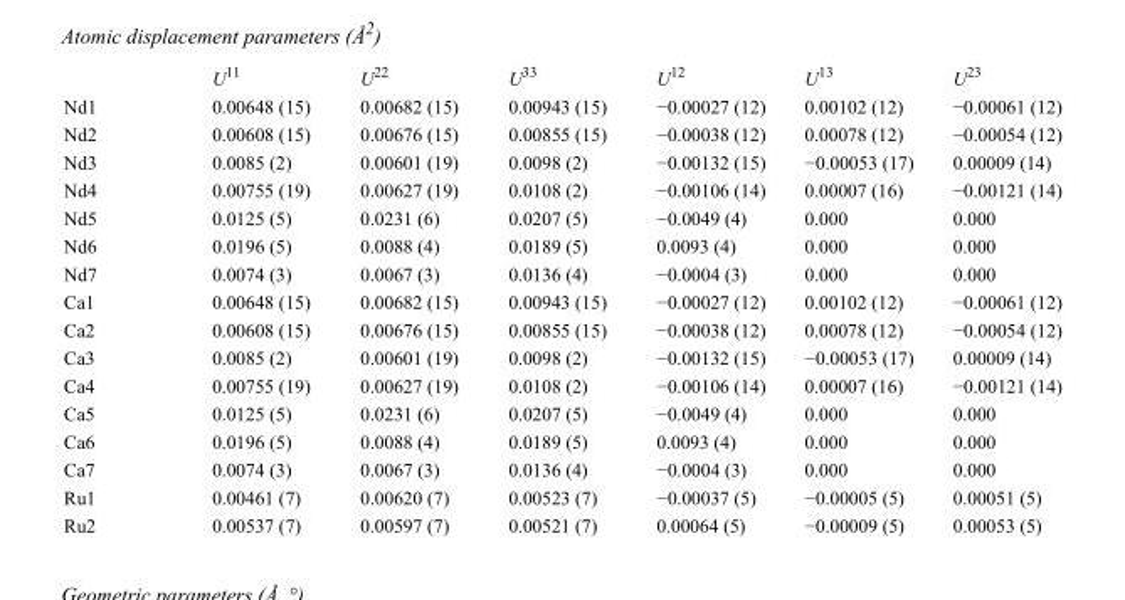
<table><thead><tr><td></td><td>U<sup>11</sup></td><td>U<sup>22</sup></td><td>U<sup>33</sup></td><td>U<sup>12</sup></td><td>U<sup>13</sup></td><td>U<sup>23</sup></td></tr></thead><tbody><tr><td>Nd1</td><td>0.00648 (15)</td><td>0.00682 (15)</td><td>0.00943 (15)</td><td>−0.00027 (12)</td><td>0.00102 (12)</td><td>−0.00061 (12)</td></tr><tr><td>Nd2</td><td>0.00608 (15)</td><td>0.00676 (15)</td><td>0.00855 (15)</td><td>−0.00038 (12)</td><td>0.00078 (12)</td><td>−0.00054 (12)</td></tr><tr><td>Nd3</td><td>0.0085 (2)</td><td>0.00601 (19)</td><td>0.0098 (2)</td><td>−0.00132 (15)</td><td>−0.00053 (17)</td><td>0.00009 (14)</td></tr><tr><td>Nd4</td><td>0.00755 (19)</td><td>0.00627 (19)</td><td>0.0108 (2)</td><td>−0.00106 (14)</td><td>0.00007 (16)</td><td>−0.00121 (14)</td></tr><tr><td>Nd5</td><td>0.0125 (5)</td><td>0.0231 (6)</td><td>0.0207 (5)</td><td>−0.0049 (4)</td><td>0.000</td><td>0.000</td></tr><tr><td>Nd6</td><td>0.0196 (5)</td><td>0.0088 (4)</td><td>0.0189 (5)</td><td>0.0093 (4)</td><td>0.000</td><td>0.000</td></tr><tr><td>Nd7</td><td>0.0074 (3)</td><td>0.0067 (3)</td><td>0.0136 (4)</td><td>−0.0004 (3)</td><td>0.000</td><td>0.000</td></tr><tr><td>Ca1</td><td>0.00648 (15)</td><td>0.00682 (15)</td><td>0.00943 (15)</td><td>−0.00027 (12)</td><td>0.00102 (12)</td><td>−0.00061 (12)</td></tr><tr><td>Ca2</td><td>0.00608 (15)</td><td>0.00676 (15)</td><td>0.00855 (15)</td><td>−0.00038 (12)</td><td>0.00078 (12)</td><td>−0.00054 (12)</td></tr><tr><td>Ca3</td><td>0.0085 (2)</td><td>0.00601 (19)</td><td>0.0098 (2)</td><td>−0.00132 (15)</td><td>−0.00053 (17)</td><td>0.00009 (14)</td></tr><tr><td>Ca4</td><td>0.00755 (19)</td><td>0.00627 (19)</td><td>0.0108 (2)</td><td>−0.00106 (14)</td><td>0.00007 (16)</td><td>−0.00121 (14)</td></tr><tr><td>Ca5</td><td>0.0125 (5)</td><td>0.0231 (6)</td><td>0.0207 (5)</td><td>−0.0049 (4)</td><td>0.000</td><td>0.000</td></tr><tr><td>Ca6</td><td>0.0196 (5)</td><td>0.0088 (4)</td><td>0.0189 (5)</td><td>0.0093 (4)</td><td>0.000</td><td>0.000</td></tr><tr><td>Ca7</td><td>0.0074 (3)</td><td>0.0067 (3)</td><td>0.0136 (4)</td><td>−0.0004 (3)</td><td>0.000</td><td>0.000</td></tr><tr><td>Ru1</td><td>0.00461 (7)</td><td>0.00620 (7)</td><td>0.00523 (7)</td><td>−0.00037 (5)</td><td>−0.00005 (5)</td><td>0.00051 (5)</td></tr><tr><td>Ru2</td><td>0.00537 (7)</td><td>0.00597 (7)</td><td>0.00521 (7)</td><td>0.00064 (5)</td><td>−0.00009 (5)</td><td>0.00053 (5)</td></tr></tbody></table>